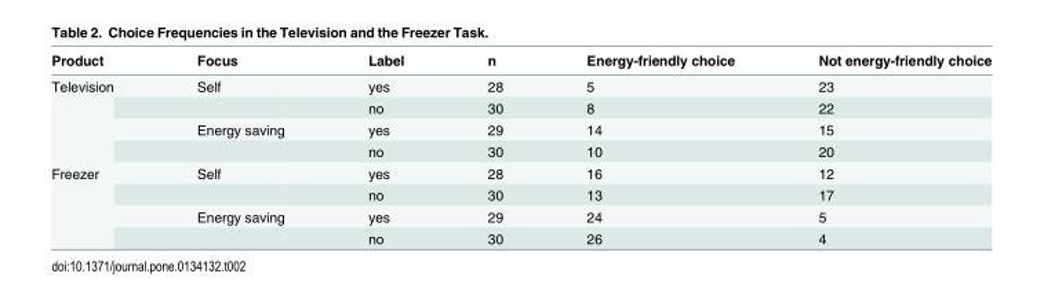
<table><thead><tr><td>Product</td><td>Focus</td><td>Label</td><td>n</td><td>Energy-friendly choice</td><td>Not energy-friendly choice</td></tr></thead><tbody><tr><td rowspan="4">Television</td><td>Self</td><td>yes</td><td>28</td><td>5</td><td>23</td></tr><tr><td></td><td>no</td><td>30</td><td>8</td><td>22</td></tr><tr><td>Energy saving</td><td>yes</td><td>29</td><td>14</td><td>15</td></tr><tr><td></td><td>no</td><td>30</td><td>10</td><td>20</td></tr><tr><td rowspan="4">Freezer</td><td>Self</td><td>yes</td><td>28</td><td>16</td><td>12</td></tr><tr><td></td><td>no</td><td>30</td><td>13</td><td>17</td></tr><tr><td>Energy saving</td><td>yes</td><td>29</td><td>24</td><td>5</td></tr><tr><td></td><td>no</td><td>30</td><td>26</td><td>4</td></tr></tbody></table>